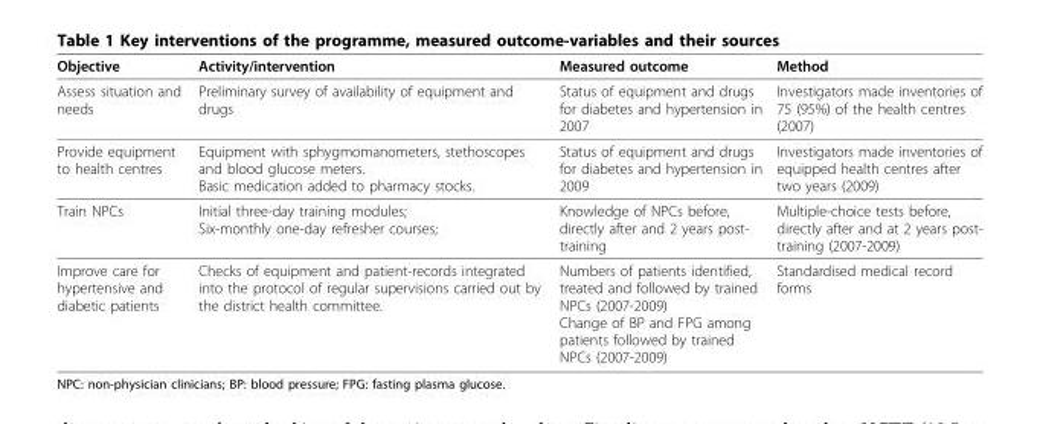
<table><thead><tr><td>Objective</td><td>Activity/intervention</td><td>Measured outcome</td><td>Method</td></tr></thead><tbody><tr><td>Assess situation and needs</td><td>Preliminary survey of availability of equipment and drugs</td><td>Status of equipment and drugs for diabetes and hypertension in 2007</td><td>Investigators made inventories of 75 (95%) of the health centres (2007)</td></tr><tr><td>Provide equipment to health centres</td><td>Equipment with sphygmomanometers, stethoscopes and blood glucose meters. Basic medication added to pharmacy stocks.</td><td>Status of equipment and drugs for diabetes and hypertension in 2009</td><td>Investigators made inventories of equipped health centres after two years (2009)</td></tr><tr><td>Train NPCs</td><td>Initial three-day training modules; Six-monthly one-day refresher courses;</td><td>Knowledge of NPCs before, directly after and 2 years post- training</td><td>Multiple-choice tests before, directly after and at 2 years post- training (2007-2009)</td></tr><tr><td>Improve care for hypertensive and diabetic patients</td><td>Checks of equipment and patient-records integrated into the protocol of regular supervisions carried out by the district health committee.</td><td>Numbers of patients identified, treated and followed by trained NPCs (2007-2009) Change of BP and FPG among patients followed by trained NPCs (2007-2009)</td><td>Standardised medical record forms</td></tr></tbody></table>